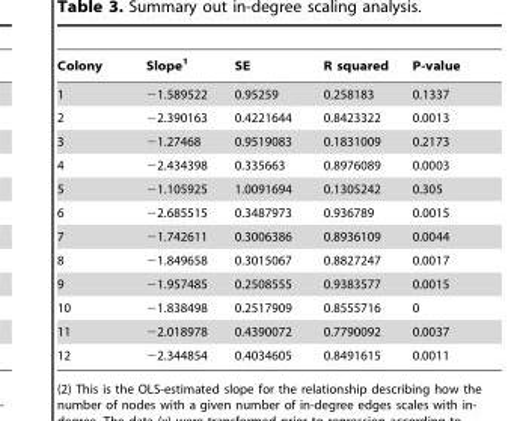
<table><thead><tr><td>Colony</td><td>Slope<sup>1</sup></td><td>SE</td><td>R squared</td><td>P-value</td></tr></thead><tbody><tr><td>1</td><td>−1.589522</td><td>0.95259</td><td>0.258183</td><td>0.1337</td></tr><tr><td>2</td><td>−2.390163</td><td>0.4221644</td><td>0.8423322</td><td>0.0013</td></tr><tr><td>3</td><td>−1.27468</td><td>0.9519083</td><td>0.1831009</td><td>0.2173</td></tr><tr><td>4</td><td>−2.434398</td><td>0.335663</td><td>0.8976089</td><td>0.0003</td></tr><tr><td>5</td><td>−1.105925</td><td>1.0091694</td><td>0.1305242</td><td>0.305</td></tr><tr><td>6</td><td>−2.685515</td><td>0.3487973</td><td>0.936789</td><td>0.0015</td></tr><tr><td>7</td><td>−1.742611</td><td>0.3006386</td><td>0.8936109</td><td>0.0044</td></tr><tr><td>8</td><td>−1.849658</td><td>0.3015067</td><td>0.8827247</td><td>0.0017</td></tr><tr><td>9</td><td>−1.957485</td><td>0.2508555</td><td>0.9383577</td><td>0.0015</td></tr><tr><td>10</td><td>−1.838498</td><td>0.2517909</td><td>0.8555716</td><td>0</td></tr><tr><td>11</td><td>−2.018978</td><td>0.4390072</td><td>0.7790092</td><td>0.0037</td></tr><tr><td>12</td><td>−2.344854</td><td>0.4034605</td><td>0.8491615</td><td>0.0011</td></tr></tbody></table>